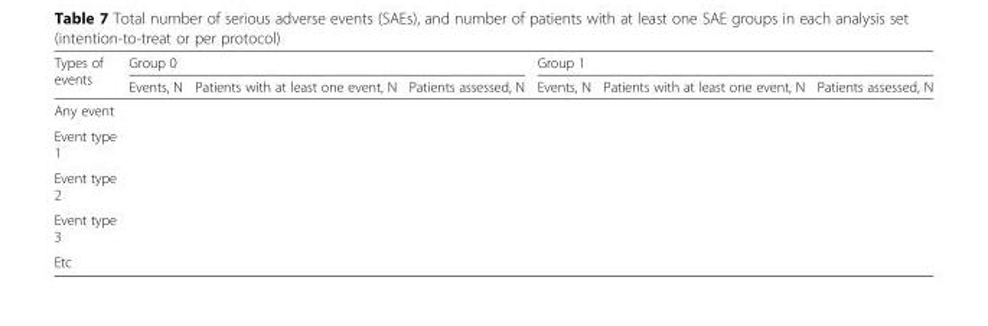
<table><thead><tr><td rowspan="2">Types of events</td><td colspan="3">Group 0</td><td colspan="3">Group 1</td></tr><tr><td>Events, N</td><td>Patients with at least one event, N</td><td>Patients assessed, N</td><td>Events, N</td><td>Patients with at least one event, N</td><td>Patients assessed, N</td></tr></thead><tbody><tr><td colspan="7">Any event</td></tr><tr><td colspan="7">Event type 1</td></tr><tr><td colspan="7">Event type 2</td></tr><tr><td colspan="7">Event type 3</td></tr><tr><td>Etc</td><td></td><td></td><td></td><td></td><td></td><td></td></tr></tbody></table>